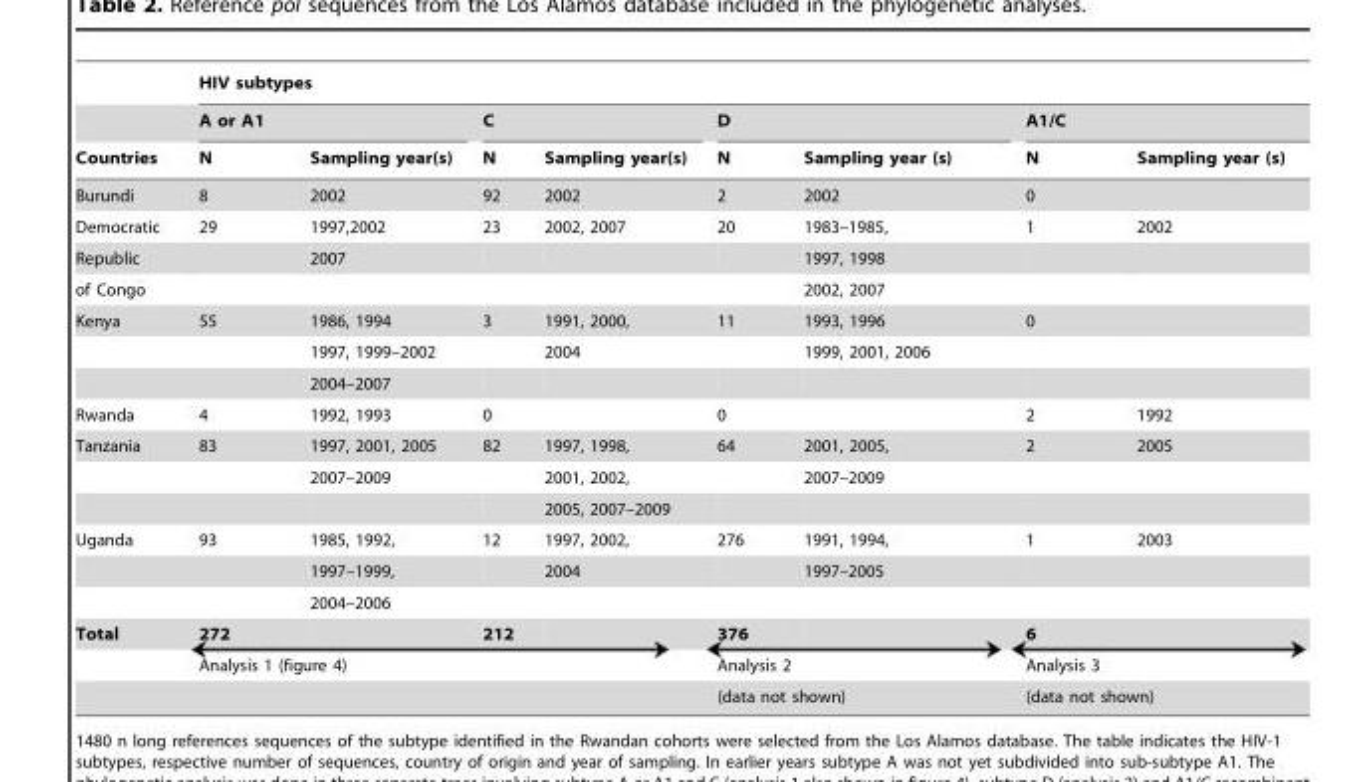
<table><thead><tr><td rowspan="3">Countries</td><td colspan="8">HIV subtypes</td></tr><tr><td colspan="2">A or A1</td><td colspan="2">C</td><td colspan="2">D</td><td colspan="2">A1/C</td></tr><tr><td>N</td><td>Sampling year(s)</td><td>N</td><td>Sampling year(s)</td><td>N</td><td>Sampling year (s)</td><td>N</td><td>Sampling year (s)</td></tr></thead><tbody><tr><td>Burundi</td><td>8</td><td>2002</td><td>92</td><td>2002</td><td>2</td><td>2002</td><td>0</td><td></td></tr><tr><td>Democratic</td><td>29</td><td>1997,2002</td><td>23</td><td>2002, 2007</td><td>20</td><td>1983–1985,</td><td>1</td><td>2002</td></tr><tr><td>Republic</td><td></td><td>2007</td><td></td><td></td><td></td><td>1997, 1998</td><td></td><td></td></tr><tr><td>of Congo</td><td></td><td></td><td></td><td></td><td></td><td>2002, 2007</td><td></td><td></td></tr><tr><td rowspan="3">Kenya</td><td>55</td><td>1986, 1994</td><td>3</td><td>1991, 2000,</td><td>11</td><td>1993, 1996</td><td>0</td><td></td></tr><tr><td></td><td>1997, 1999–2002</td><td></td><td>2004</td><td></td><td>1999, 2001, 2006</td><td></td><td></td></tr><tr><td></td><td>2004–2007</td><td></td><td></td><td></td><td></td><td></td><td></td></tr><tr><td>Rwanda</td><td>4</td><td>1992, 1993</td><td>0</td><td></td><td>0</td><td></td><td>2</td><td>1992</td></tr><tr><td rowspan="3">Tanzania</td><td>83</td><td>1997, 2001, 2005</td><td>82</td><td>1997, 1998,</td><td>64</td><td>2001, 2005,</td><td>2</td><td>2005</td></tr><tr><td></td><td>2007–2009</td><td></td><td>2001, 2002,</td><td></td><td>2007–2009</td><td></td><td></td></tr><tr><td></td><td></td><td></td><td>2005, 2007–2009</td><td></td><td></td><td></td><td></td></tr><tr><td rowspan="3">Uganda</td><td>93</td><td>1985, 1992,</td><td>12</td><td>1997, 2002,</td><td>276</td><td>1991, 1994,</td><td>1</td><td>2003</td></tr><tr><td></td><td>1997–1999,</td><td></td><td>2004</td><td></td><td>1997–2005</td><td></td><td></td></tr><tr><td></td><td>2004–2006</td><td></td><td></td><td></td><td></td><td></td><td></td></tr><tr><td rowspan="3">Total</td><td>272</td><td></td><td>212</td><td></td><td>376</td><td></td><td>6</td><td></td></tr><tr><td colspan="4">Analysis 1 (figure 4)</td><td colspan="2">Analysis 2</td><td colspan="2">Analysis 3</td></tr><tr><td colspan="4"></td><td colspan="2">(data not shown)</td><td colspan="2">(data not shown)</td></tr></tbody></table>